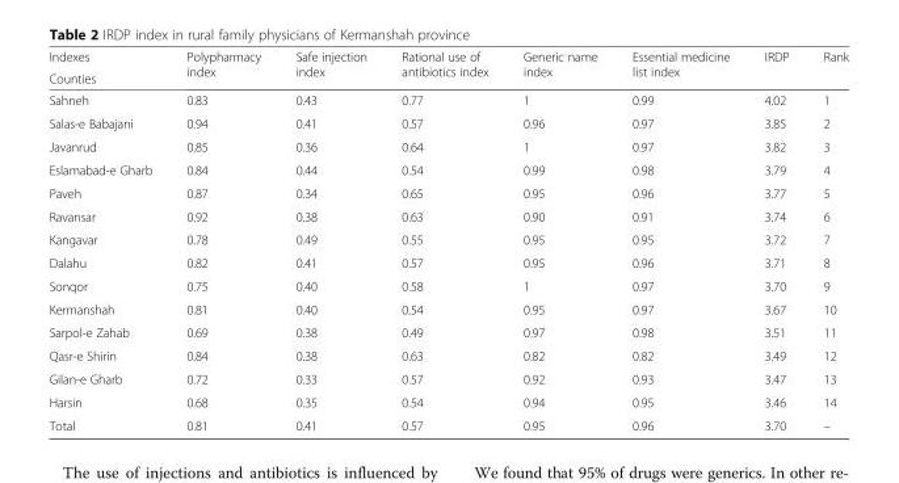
<table><thead><tr><td rowspan="2">Indexes Counties</td><td rowspan="2">Polypharmacy index</td><td rowspan="2">Safe injection index</td><td rowspan="2">Rational use of antibiotics index</td><td rowspan="2">Generic name index</td><td rowspan="2">Essential medicine list index</td><td rowspan="2">IRDP</td><td rowspan="2">Rank</td></tr><tr></tr></thead><tbody><tr><td>Sahneh</td><td>0.83</td><td>0.43</td><td>0.77</td><td>1</td><td>0.99</td><td>4.02</td><td>1</td></tr><tr><td>Salas-e Babajani</td><td>0.94</td><td>0.41</td><td>0.57</td><td>0.96</td><td>0.97</td><td>3.85</td><td>2</td></tr><tr><td>Javanrud</td><td>0.85</td><td>0.36</td><td>0.64</td><td>1</td><td>0.97</td><td>3.82</td><td>3</td></tr><tr><td>Eslamabad-e Gharb</td><td>0.84</td><td>0.44</td><td>0.54</td><td>0.99</td><td>0.98</td><td>3.79</td><td>4</td></tr><tr><td>Paveh</td><td>0.87</td><td>0.34</td><td>0.65</td><td>0.95</td><td>0.96</td><td>3.77</td><td>5</td></tr><tr><td>Ravansar</td><td>0.92</td><td>0.38</td><td>0.63</td><td>0.90</td><td>0.91</td><td>3.74</td><td>6</td></tr><tr><td>Kangavar</td><td>0.78</td><td>0.49</td><td>0.55</td><td>0.95</td><td>0.95</td><td>3.72</td><td>7</td></tr><tr><td>Dalahu</td><td>0.82</td><td>0.41</td><td>0.57</td><td>0.95</td><td>0.96</td><td>3.71</td><td>8</td></tr><tr><td>Sonqor</td><td>0.75</td><td>0.40</td><td>0.58</td><td>1</td><td>0.97</td><td>3.70</td><td>9</td></tr><tr><td>Kermanshah</td><td>0.81</td><td>0.40</td><td>0.54</td><td>0.95</td><td>0.97</td><td>3.67</td><td>10</td></tr><tr><td>Sarpol-e Zahab</td><td>0.69</td><td>0.38</td><td>0.49</td><td>0.97</td><td>0.98</td><td>3.51</td><td>11</td></tr><tr><td>Qasr-e Shirin</td><td>0.84</td><td>0.38</td><td>0.63</td><td>0.82</td><td>0.82</td><td>3.49</td><td>12</td></tr><tr><td>Gilan-e Gharb</td><td>0.72</td><td>0.33</td><td>0.57</td><td>0.92</td><td>0.93</td><td>3.47</td><td>13</td></tr><tr><td>Harsin</td><td>0.68</td><td>0.35</td><td>0.54</td><td>0.94</td><td>0.95</td><td>3.46</td><td>14</td></tr><tr><td>Total</td><td>0.81</td><td>0.41</td><td>0.57</td><td>0.95</td><td>0.96</td><td>3.70</td><td>–</td></tr></tbody></table>